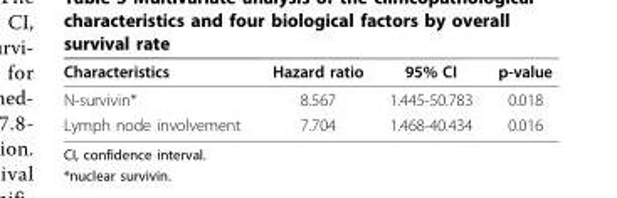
<table><thead><tr><td>Characteristics</td><td>Hazard ratio</td><td>95% CI</td><td>p-value</td></tr></thead><tbody><tr><td>N-survivin*</td><td>8.567</td><td>1.445-50.783</td><td>0.018</td></tr><tr><td>Lymph node involvement</td><td>7.704</td><td>1.468-40.434</td><td>0.016</td></tr></tbody></table>